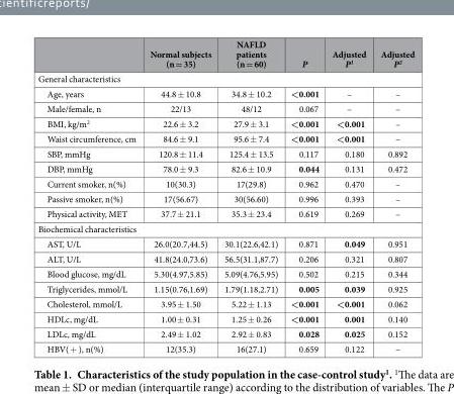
<table><thead><tr><td></td><td>Normal subjects (n = 35)</td><td>NAFLD patients (n = 60)</td><td>P</td><td>Adjusted P<sup>1</sup></td><td>Adjusted P<sup>2</sup></td></tr></thead><tbody><tr><td colspan="6">General characteristics</td></tr><tr><td>Age, years</td><td>44.8 ± 10.8</td><td>34.8 ± 10.2</td><td>&lt;0.001</td><td>–</td><td>–</td></tr><tr><td>Male/female, n</td><td>22/13</td><td>48/12</td><td>0.067</td><td>–</td><td>–</td></tr><tr><td>BMI, kg/m<sup>2</sup></td><td>22.6 ± 3.2</td><td>27.9 ± 3.1</td><td>&lt;0.001</td><td>&lt;0.001</td><td>–</td></tr><tr><td>Waist circumference, cm</td><td>84.6 ± 9.1</td><td>95.6 ± 7.4</td><td>&lt;0.001</td><td>&lt;0.001</td><td>–</td></tr><tr><td>SBP, mmHg</td><td>120.8 ± 11.4</td><td>125.4 ± 13.5</td><td>0.117</td><td>0.180</td><td>0.892</td></tr><tr><td>DBP, mmHg</td><td>78.0 ± 9.3</td><td>82.6 ± 10.9</td><td>0.044</td><td>0.131</td><td>0.472</td></tr><tr><td>Current smoker, n(%)</td><td>10(30.3)</td><td>17(29.8)</td><td>0.962</td><td>0.470</td><td>–</td></tr><tr><td>Passive smoker, n(%)</td><td>17(56.67)</td><td>30(56.60)</td><td>0.996</td><td>0.393</td><td>–</td></tr><tr><td>Physical activity, MET</td><td>37.7 ± 21.1</td><td>35.3 ± 23.4</td><td>0.619</td><td>0.269</td><td>–</td></tr><tr><td colspan="6">Biochemical characteristics</td></tr><tr><td>AST, U/L</td><td>26.0(20.7,44.5)</td><td>30.1(22.6,42.1)</td><td>0.871</td><td>0.049</td><td>0.951</td></tr><tr><td>ALT, U/L</td><td>41.8(24.0,73.6)</td><td>56.5(31.1,87.7)</td><td>0.206</td><td>0.321</td><td>0.807</td></tr><tr><td>Blood glucose, mg/dL</td><td>5.30(4.97,5.85)</td><td>5.09(4.76,5.95)</td><td>0.502</td><td>0.215</td><td>0.344</td></tr><tr><td>Triglycerides, mmol/L</td><td>1.15(0.76,1.69)</td><td>1.79(1.18,2.71)</td><td>0.005</td><td>0.039</td><td>0.925</td></tr><tr><td>Cholesterol, mmol/L</td><td>3.95 ± 1.50</td><td>5.22 ± 1.13</td><td>&lt;0.001</td><td>&lt;0.001</td><td>0.062</td></tr><tr><td>HDLc, mg/dL</td><td>1.00 ± 0.31</td><td>1.25 ± 0.26</td><td>&lt;0.001</td><td>0.001</td><td>0.140</td></tr><tr><td>LDLc, mg/dL</td><td>2.49 ± 1.02</td><td>2.92 ± 0.83</td><td>0.028</td><td>0.025</td><td>0.152</td></tr><tr><td>HBV( + ), n(%)</td><td>12(35.3)</td><td>16(27.1)</td><td>0.659</td><td>0.122</td><td>–</td></tr></tbody></table>